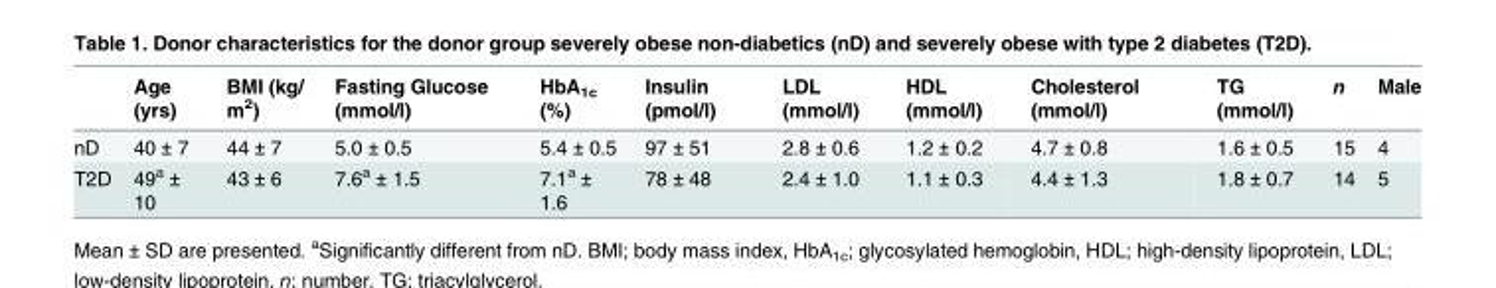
<table><thead><tr><td></td><td>Age (yrs)</td><td>BMI (kg/ m<sup>2</sup>)</td><td>Fasting Glucose (mmol/l)</td><td>HbA<sub>1c</sub> (%)</td><td>Insulin (pmol/l)</td><td>LDL (mmol/l)</td><td>HDL (mmol/l)</td><td>Cholesterol (mmol/l)</td><td>TG (mmol/l)</td><td>n</td><td>Male</td></tr></thead><tbody><tr><td>nD</td><td>40 ± 7</td><td>44 ± 7</td><td>5.0 ± 0.5</td><td>5.4 ± 0.5</td><td>97 ± 51</td><td>2.8 ± 0.6</td><td>1.2 ± 0.2</td><td>4.7 ± 0.8</td><td>1.6 ± 0.5</td><td>15</td><td>4</td></tr><tr><td>T2D</td><td>49<sup>a</sup> ± 10</td><td>43 ± 6</td><td>7.6<sup>a</sup> ± 1.5</td><td>7.1<sup>a</sup> ± 1.6</td><td>78 ± 48</td><td>2.4 ± 1.0</td><td>1.1 ± 0.3</td><td>4.4 ± 1.3</td><td>1.8 ± 0.7</td><td>14</td><td>5</td></tr></tbody></table>